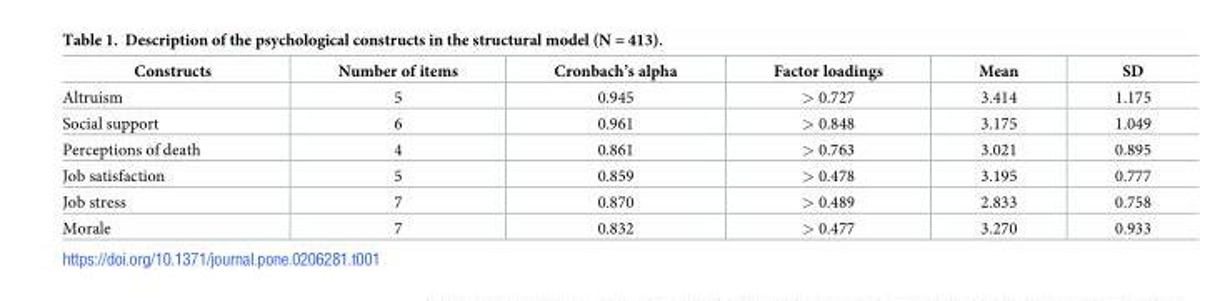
<table><thead><tr><td>Constructs</td><td>Number of items</td><td>Cronbach’s alpha</td><td>Factor loadings</td><td>Mean</td><td>SD</td></tr></thead><tbody><tr><td>Altruism</td><td>5</td><td>0.945</td><td>&gt; 0.727</td><td>3.414</td><td>1.175</td></tr><tr><td>Social support</td><td>6</td><td>0.961</td><td>&gt; 0.848</td><td>3.175</td><td>1.049</td></tr><tr><td>Perceptions of death</td><td>4</td><td>0.861</td><td>&gt; 0.763</td><td>3.021</td><td>0.895</td></tr><tr><td>Job satisfaction</td><td>5</td><td>0.859</td><td>&gt; 0.478</td><td>3.195</td><td>0.777</td></tr><tr><td>Job stress</td><td>7</td><td>0.870</td><td>&gt; 0.489</td><td>2.833</td><td>0.758</td></tr><tr><td>Morale</td><td>7</td><td>0.832</td><td>&gt; 0.477</td><td>3.270</td><td>0.933</td></tr></tbody></table>